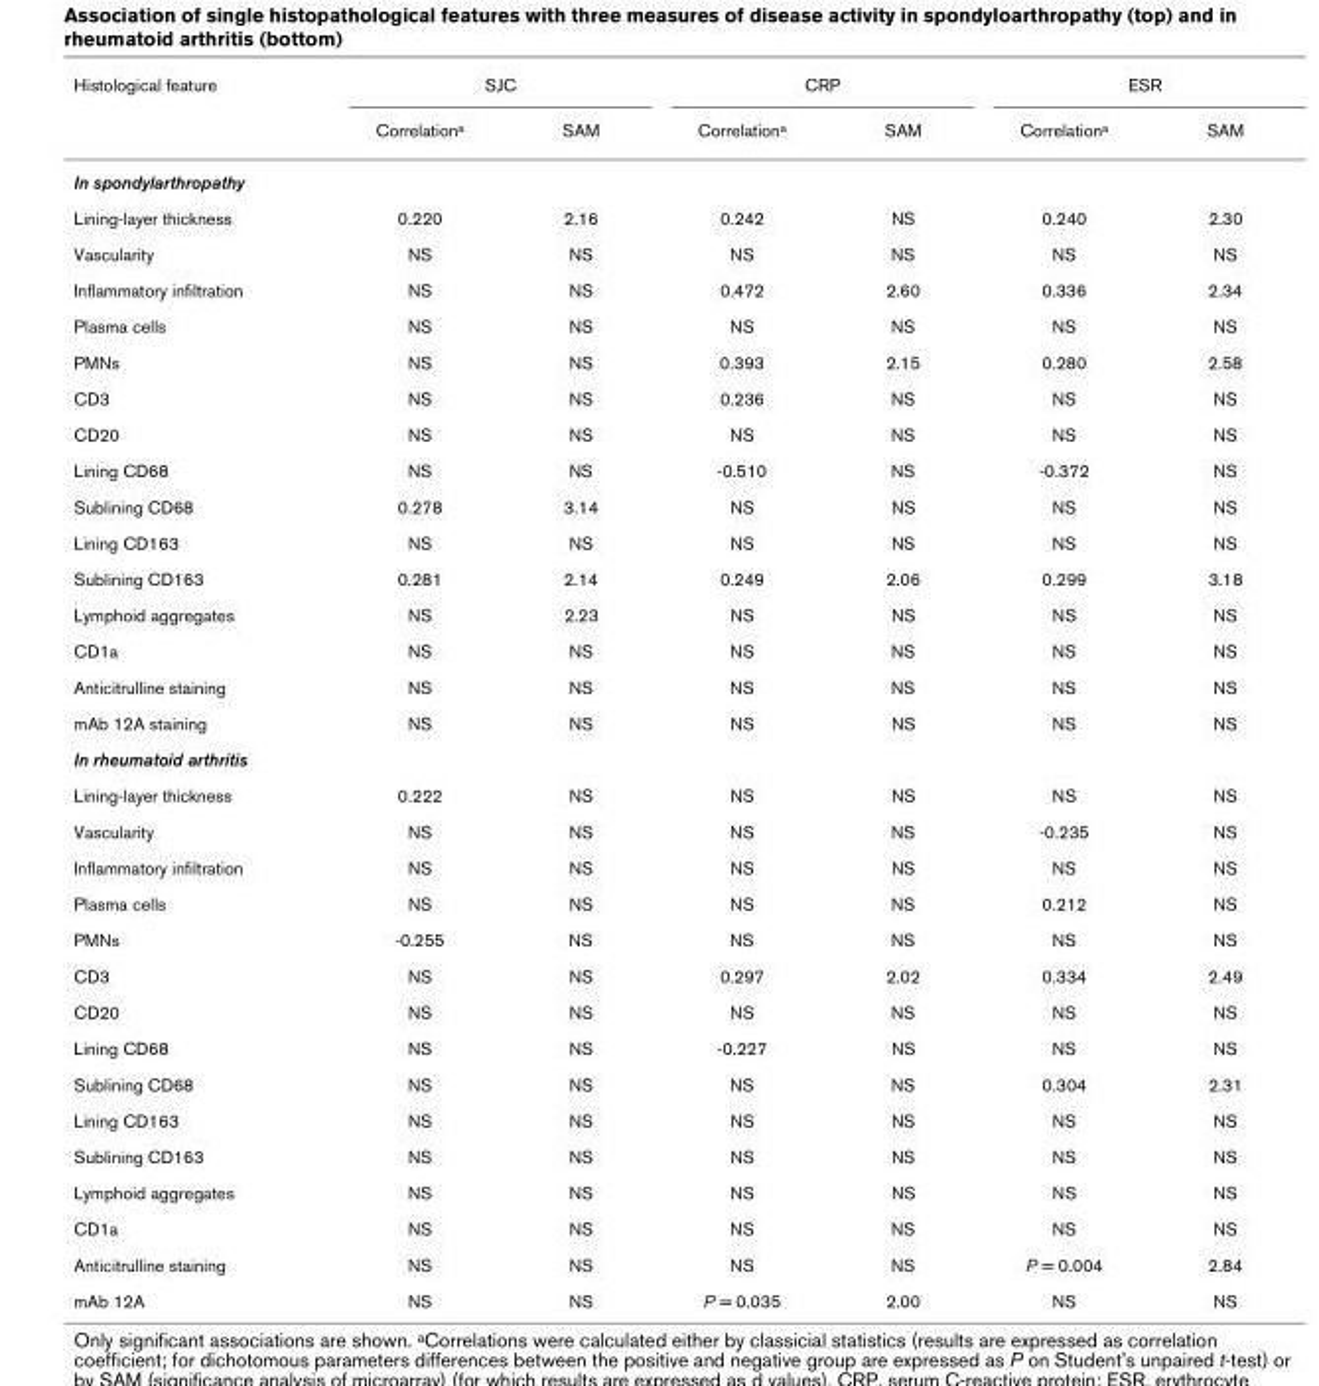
<table><thead><tr><td rowspan="2">Histological feature</td><td colspan="2">SJC</td><td colspan="2">CRP</td><td colspan="2">ESR</td></tr><tr><td>Correlationa</td><td>SAM</td><td>Correlationa</td><td>SAM</td><td>Correlationa</td><td>SAM</td></tr></thead><tbody><tr><td colspan="7">In spondylarthropathy</td></tr><tr><td>Lining-layer thickness</td><td>0.220</td><td>2.16</td><td>0.242</td><td>NS</td><td>0.240</td><td>2.30</td></tr><tr><td>Vascularity</td><td>NS</td><td>NS</td><td>NS</td><td>NS</td><td>NS</td><td>NS</td></tr><tr><td>Inflammatory infiltration</td><td>NS</td><td>NS</td><td>0.472</td><td>2.60</td><td>0.336</td><td>2.34</td></tr><tr><td>Plasma cells</td><td>NS</td><td>NS</td><td>NS</td><td>NS</td><td>NS</td><td>NS</td></tr><tr><td>PMNs</td><td>NS</td><td>NS</td><td>0.393</td><td>2.15</td><td>0.280</td><td>2.58</td></tr><tr><td>CD3</td><td>NS</td><td>NS</td><td>0.236</td><td>NS</td><td>NS</td><td>NS</td></tr><tr><td>CD20</td><td>NS</td><td>NS</td><td>NS</td><td>NS</td><td>NS</td><td>NS</td></tr><tr><td>Lining CD68</td><td>NS</td><td>NS</td><td>-0.510</td><td>NS</td><td>-0.372</td><td>NS</td></tr><tr><td>Sublining CD68</td><td>0.278</td><td>3.14</td><td>NS</td><td>NS</td><td>NS</td><td>NS</td></tr><tr><td>Lining CD163</td><td>NS</td><td>NS</td><td>NS</td><td>NS</td><td>NS</td><td>NS</td></tr><tr><td>Sublining CD163</td><td>0.281</td><td>2.14</td><td>0.249</td><td>2.06</td><td>0.299</td><td>3.18</td></tr><tr><td>Lymphoid aggregates</td><td>NS</td><td>2.23</td><td>NS</td><td>NS</td><td>NS</td><td>NS</td></tr><tr><td>CD1a</td><td>NS</td><td>NS</td><td>NS</td><td>NS</td><td>NS</td><td>NS</td></tr><tr><td>Anticitrulline staining</td><td>NS</td><td>NS</td><td>NS</td><td>NS</td><td>NS</td><td>NS</td></tr><tr><td>mAb 12A staining</td><td>NS</td><td>NS</td><td>NS</td><td>NS</td><td>NS</td><td>NS</td></tr><tr><td colspan="7">In rheumatoid arthritis</td></tr><tr><td>Lining-layer thickness</td><td>0.222</td><td>NS</td><td>NS</td><td>NS</td><td>NS</td><td>NS</td></tr><tr><td>Vascularity</td><td>NS</td><td>NS</td><td>NS</td><td>NS</td><td>-0.235</td><td>NS</td></tr><tr><td>Inflammatory infiltration</td><td>NS</td><td>NS</td><td>NS</td><td>NS</td><td>NS</td><td>NS</td></tr><tr><td>Plasma cells</td><td>NS</td><td>NS</td><td>NS</td><td>NS</td><td>0.212</td><td>NS</td></tr><tr><td>PMNs</td><td>-0.255</td><td>NS</td><td>NS</td><td>NS</td><td>NS</td><td>NS</td></tr><tr><td>CD3</td><td>NS</td><td>NS</td><td>0.297</td><td>2.02</td><td>0.334</td><td>2.49</td></tr><tr><td>CD20</td><td>NS</td><td>NS</td><td>NS</td><td>NS</td><td>NS</td><td>NS</td></tr><tr><td>Lining CD68</td><td>NS</td><td>NS</td><td>-0.227</td><td>NS</td><td>NS</td><td>NS</td></tr><tr><td>Sublining CD68</td><td>NS</td><td>NS</td><td>NS</td><td>NS</td><td>0.304</td><td>2.31</td></tr><tr><td>Lining CD163</td><td>NS</td><td>NS</td><td>NS</td><td>NS</td><td>NS</td><td>NS</td></tr><tr><td>Sublining CD163</td><td>NS</td><td>NS</td><td>NS</td><td>NS</td><td>NS</td><td>NS</td></tr><tr><td>Lymphoid aggregates</td><td>NS</td><td>NS</td><td>NS</td><td>NS</td><td>NS</td><td>NS</td></tr><tr><td>CD1a</td><td>NS</td><td>NS</td><td>NS</td><td>NS</td><td>NS</td><td>NS</td></tr><tr><td>Anticitrulline staining</td><td>NS</td><td>NS</td><td>NS</td><td>NS</td><td>P = 0.004</td><td>2.84</td></tr><tr><td>mAb 12A</td><td>NS</td><td>NS</td><td>P = 0.035</td><td>2.00</td><td>NS</td><td>NS</td></tr></tbody></table>